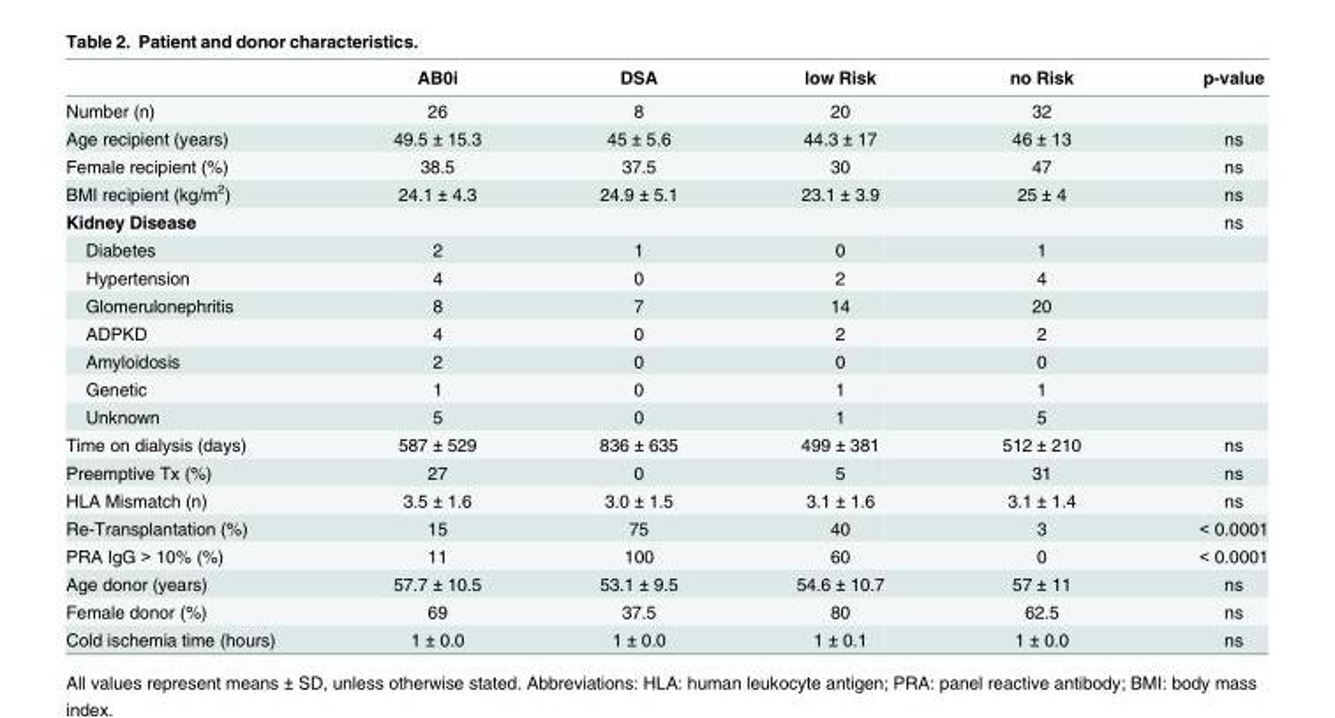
<table><thead><tr><td></td><td>AB0i</td><td>DSA</td><td>low Risk</td><td>no Risk</td><td>p-value</td></tr></thead><tbody><tr><td>Number (n)</td><td>26</td><td>8</td><td>20</td><td>32</td><td></td></tr><tr><td>Age recipient (years)</td><td>49.5 ± 15.3</td><td>45 ± 5.6</td><td>44.3 ± 17</td><td>46 ± 13</td><td>ns</td></tr><tr><td>Female recipient (%)</td><td>38.5</td><td>37.5</td><td>30</td><td>47</td><td>ns</td></tr><tr><td>BMI recipient (kg/m<sup>2</sup>)</td><td>24.1 ± 4.3</td><td>24.9 ± 5.1</td><td>23.1 ± 3.9</td><td>25 ± 4</td><td>ns</td></tr><tr><td>Kidney Disease</td><td></td><td></td><td></td><td></td><td>ns</td></tr><tr><td>Diabetes</td><td>2</td><td>1</td><td>0</td><td>1</td><td></td></tr><tr><td>Hypertension</td><td>4</td><td>0</td><td>2</td><td>4</td><td></td></tr><tr><td>Glomerulonephritis</td><td>8</td><td>7</td><td>14</td><td>20</td><td></td></tr><tr><td>ADPKD</td><td>4</td><td>0</td><td>2</td><td>2</td><td></td></tr><tr><td>Amyloidosis</td><td>2</td><td>0</td><td>0</td><td>0</td><td></td></tr><tr><td>Genetic</td><td>1</td><td>0</td><td>1</td><td>1</td><td></td></tr><tr><td>Unknown</td><td>5</td><td>0</td><td>1</td><td>5</td><td></td></tr><tr><td>Time on dialysis (days)</td><td>587 ± 529</td><td>836 ± 635</td><td>499 ± 381</td><td>512 ± 210</td><td>ns</td></tr><tr><td>Preemptive Tx (%)</td><td>27</td><td>0</td><td>5</td><td>31</td><td>ns</td></tr><tr><td>HLA Mismatch (n)</td><td>3.5 ± 1.6</td><td>3.0 ± 1.5</td><td>3.1 ± 1.6</td><td>3.1 ± 1.4</td><td>ns</td></tr><tr><td>Re-Transplantation (%)</td><td>15</td><td>75</td><td>40</td><td>3</td><td>&lt; 0.0001</td></tr><tr><td>PRA IgG &gt; 10% (%)</td><td>11</td><td>100</td><td>60</td><td>0</td><td>&lt; 0.0001</td></tr><tr><td>Age donor (years)</td><td>57.7 ± 10.5</td><td>53.1 ± 9.5</td><td>54.6 ± 10.7</td><td>57 ± 11</td><td>ns</td></tr><tr><td>Female donor (%)</td><td>69</td><td>37.5</td><td>80</td><td>62.5</td><td>ns</td></tr><tr><td>Cold ischemia time (hours)</td><td>1 ± 0.0</td><td>1 ± 0.0</td><td>1 ± 0.1</td><td>1 ± 0.0</td><td>ns</td></tr></tbody></table>